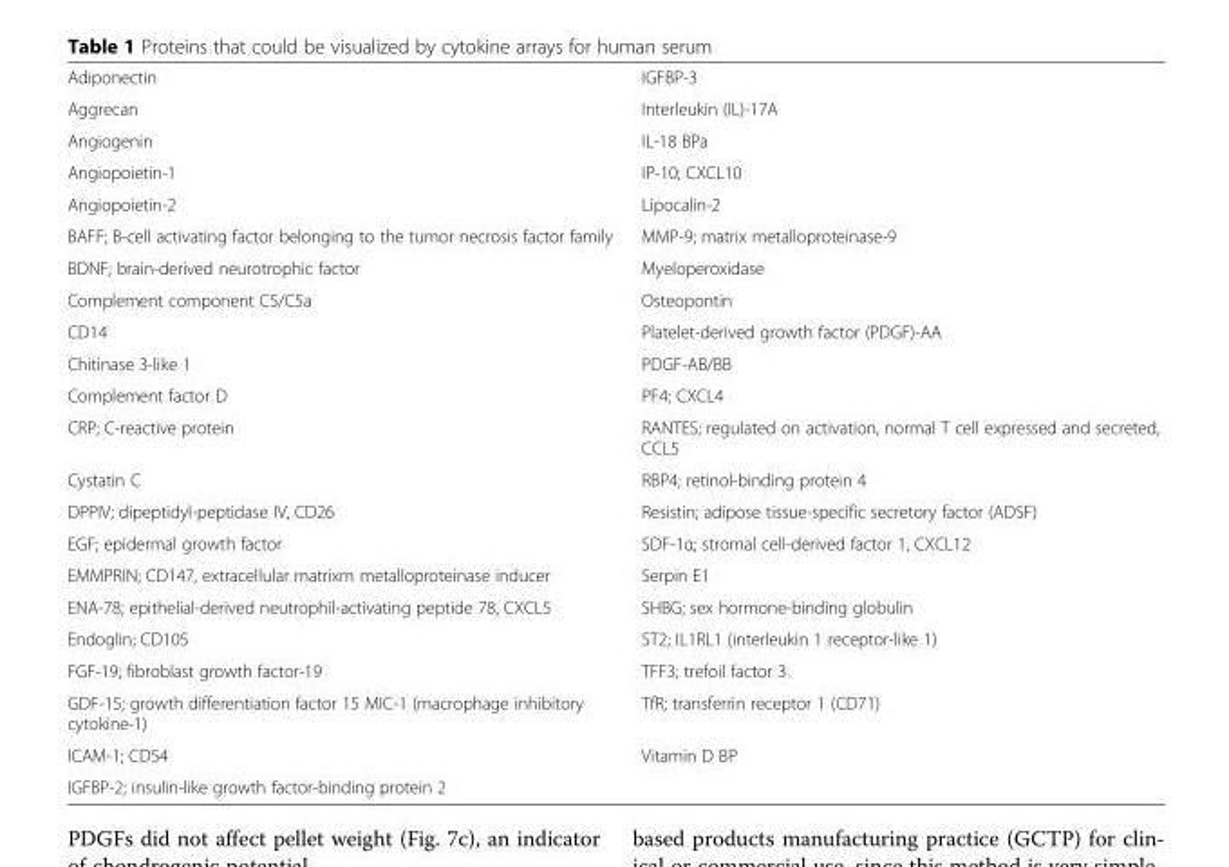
<table><tbody><tr><td>Adiponectin</td><td>IGFBP-3</td></tr><tr><td>Aggrecan</td><td>Interleukin (IL)-17A</td></tr><tr><td>Angiogenin</td><td>IL-18 BPa</td></tr><tr><td>Angiopoietin-1</td><td>IP-10; CXCL10</td></tr><tr><td>Angiopoietin-2</td><td>Lipocalin-2</td></tr><tr><td>BAFF; B-cell activating factor belonging to the tumor necrosis factor family</td><td>MMP-9; matrix metalloproteinase-9</td></tr><tr><td>BDNF; brain-derived neurotrophic factor</td><td>Myeloperoxidase</td></tr><tr><td>Complement component C5/C5a</td><td>Osteopontin</td></tr><tr><td>CD14</td><td>Platelet-derived growth factor (PDGF)-AA</td></tr><tr><td>Chitinase 3-like 1</td><td>PDGF-AB/BB</td></tr><tr><td>Complement factor D</td><td>PF4; CXCL4</td></tr><tr><td>CRP; C-reactive protein</td><td>RANTES; regulated on activation, normal T cell expressed and secreted, CCL5</td></tr><tr><td>Cystatin C</td><td>RBP4; retinol-binding protein 4</td></tr><tr><td>DPPIV; dipeptidyl-peptidase IV, CD26</td><td>Resistin; adipose tissue-specific secretory factor (ADSF)</td></tr><tr><td>EGF; epidermal growth factor</td><td>SDF-1α; stromal cell-derived factor 1, CXCL12</td></tr><tr><td>EMMPRIN; CD147, extracellular matrixm metalloproteinase inducer</td><td>Serpin E1</td></tr><tr><td>ENA-78; epithelial-derived neutrophil-activating peptide 78, CXCL5</td><td>SHBG; sex hormone-binding globulin</td></tr><tr><td>Endoglin; CD105</td><td>ST2; IL1RL1 (interleukin 1 receptor-like 1)</td></tr><tr><td>FGF-19; fibroblast growth factor-19</td><td>TFF3; trefoil factor 3</td></tr><tr><td>GDF-15; growth differentiation factor 15 MIC-1 (macrophage inhibitory cytokine-1)</td><td>TfR; transferrin receptor 1 (CD71)</td></tr><tr><td>ICAM-1; CD54</td><td>Vitamin D BP</td></tr><tr><td>IGFBP-2; insulin-like growth factor-binding protein 2</td><td></td></tr></tbody></table>